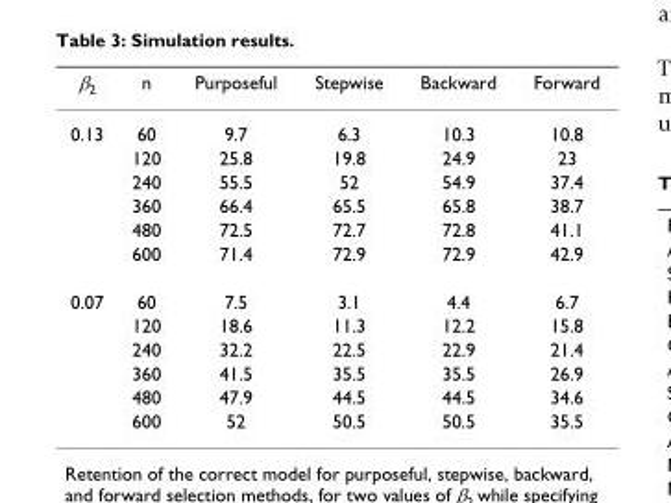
<table><thead><tr><td>β<sub>2</sub></td><td>n</td><td>Purposeful</td><td>Stepwise</td><td>Backward</td><td>Forward</td></tr></thead><tbody><tr><td rowspan="6">0.13</td><td>60</td><td>9.7</td><td>6.3</td><td>10.3</td><td>10.8</td></tr><tr><td>120</td><td>25.8</td><td>19.8</td><td>24.9</td><td>23</td></tr><tr><td>240</td><td>55.5</td><td>52</td><td>54.9</td><td>37.4</td></tr><tr><td>360</td><td>66.4</td><td>65.5</td><td>65.8</td><td>38.7</td></tr><tr><td>480</td><td>72.5</td><td>72.7</td><td>72.8</td><td>41.1</td></tr><tr><td>600</td><td>71.4</td><td>72.9</td><td>72.9</td><td>42.9</td></tr><tr><td rowspan="6">0.07</td><td>60</td><td>7.5</td><td>3.1</td><td>4.4</td><td>6.7</td></tr><tr><td>120</td><td>18.6</td><td>11.3</td><td>12.2</td><td>15.8</td></tr><tr><td>240</td><td>32.2</td><td>22.5</td><td>22.9</td><td>21.4</td></tr><tr><td>360</td><td>41.5</td><td>35.5</td><td>35.5</td><td>26.9</td></tr><tr><td>480</td><td>47.9</td><td>44.5</td><td>44.5</td><td>34.6</td></tr><tr><td>600</td><td>52</td><td>50.5</td><td>50.5</td><td>35.5</td></tr></tbody></table>